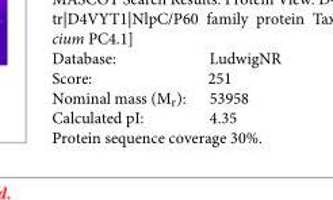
<table><tbody><tr><td>Database:</td><td>LudwigNR</td></tr><tr><td>Score:</td><td>251</td></tr><tr><td>Nominal mass (M<sub>r</sub>):</td><td>53958</td></tr><tr><td>Calculated pI:</td><td>4.35</td></tr><tr><td colspan="2">Protein sequence coverage 30%.</td></tr></tbody></table>